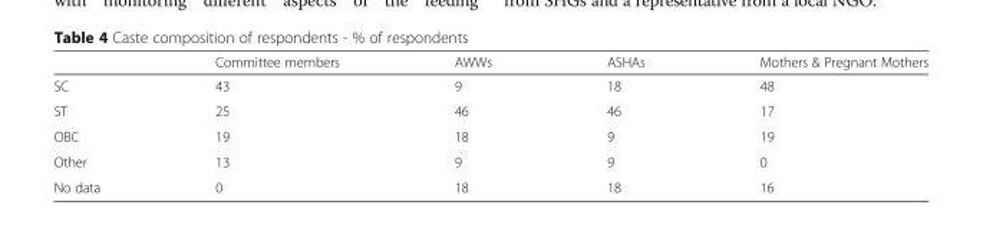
<table><thead><tr><td></td><td>Committee members</td><td>AWWs</td><td>ASHAs</td><td>Mothers &amp; Pregnant Mothers</td></tr></thead><tbody><tr><td>SC</td><td>43</td><td>9</td><td>18</td><td>48</td></tr><tr><td>ST</td><td>25</td><td>46</td><td>46</td><td>17</td></tr><tr><td>OBC</td><td>19</td><td>18</td><td>9</td><td>19</td></tr><tr><td>Other</td><td>13</td><td>9</td><td>9</td><td>0</td></tr><tr><td>No data</td><td>0</td><td>18</td><td>18</td><td>16</td></tr></tbody></table>